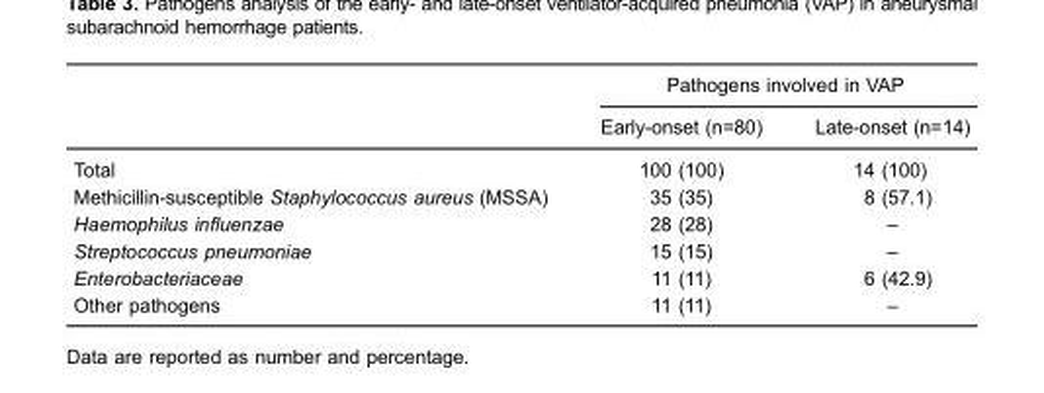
<table><thead><tr><td rowspan="2"></td><td colspan="2">Pathogens involved in VAP</td></tr><tr><td>Early-onset (n=80)</td><td>Late-onset (n=14)</td></tr></thead><tbody><tr><td>Total</td><td>100 (100)</td><td>14 (100)</td></tr><tr><td>Methicillin-susceptible Staphylococcus aureus (MSSA)</td><td>35 (35)</td><td>8 (57.1)</td></tr><tr><td>Haemophilus influenzae</td><td>28 (28)</td><td>–</td></tr><tr><td>Streptococcus pneumoniae</td><td>15 (15)</td><td>–</td></tr><tr><td>Enterobacteriaceae</td><td>11 (11)</td><td>6 (42.9)</td></tr><tr><td>Other pathogens</td><td>11 (11)</td><td>–</td></tr></tbody></table>